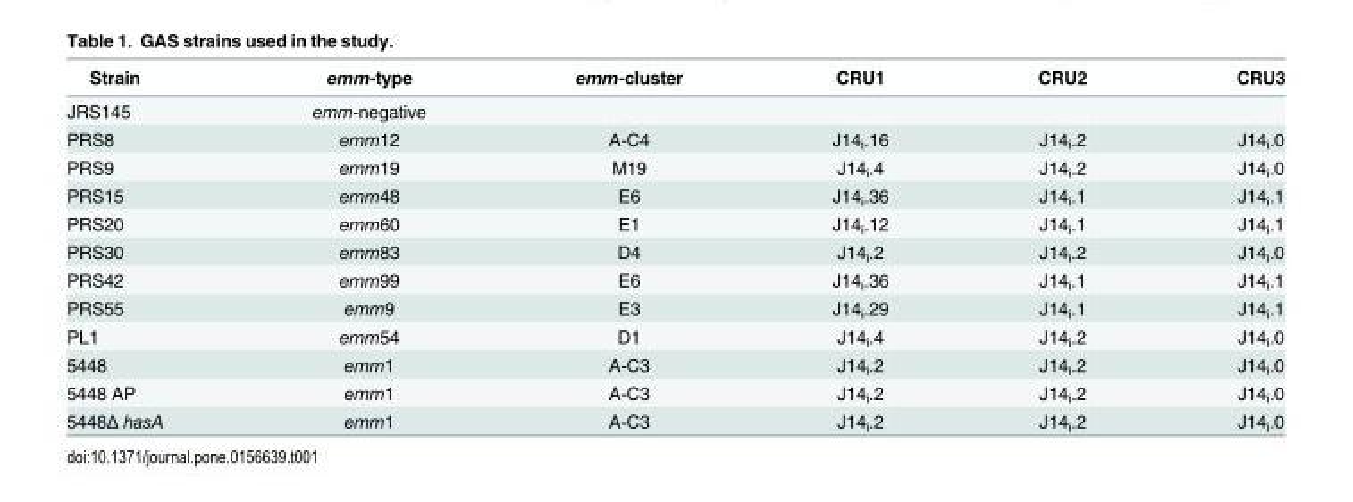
<table><thead><tr><td>Strain</td><td>emm-type</td><td>emm-cluster</td><td>CRU1</td><td>CRU2</td><td>CRU3</td></tr></thead><tbody><tr><td>JRS145</td><td>emm-negative</td><td></td><td></td><td></td><td></td></tr><tr><td>PRS8</td><td>emm12</td><td>A-C4</td><td>J14<sub>i</sub>.16</td><td>J14<sub>i</sub>.2</td><td>J14<sub>i</sub>.0</td></tr><tr><td>PRS9</td><td>emm19</td><td>M19</td><td>J14<sub>i</sub>.4</td><td>J14<sub>i</sub>.2</td><td>J14<sub>i</sub>.0</td></tr><tr><td>PRS15</td><td>emm48</td><td>E6</td><td>J14<sub>i</sub>.36</td><td>J14<sub>i</sub>.1</td><td>J14<sub>i</sub>.1</td></tr><tr><td>PRS20</td><td>emm60</td><td>E1</td><td>J14<sub>i</sub>.12</td><td>J14<sub>i</sub>.1</td><td>J14<sub>i</sub>.1</td></tr><tr><td>PRS30</td><td>emm83</td><td>D4</td><td>J14<sub>i</sub>.2</td><td>J14<sub>i</sub>.2</td><td>J14<sub>i</sub>.0</td></tr><tr><td>PRS42</td><td>emm99</td><td>E6</td><td>J14<sub>i</sub>.36</td><td>J14<sub>i</sub>.1</td><td>J14<sub>i</sub>.1</td></tr><tr><td>PRS55</td><td>emm9</td><td>E3</td><td>J14<sub>i</sub>.29</td><td>J14<sub>i</sub>.1</td><td>J14<sub>i</sub>.1</td></tr><tr><td>PL1</td><td>emm54</td><td>D1</td><td>J14<sub>i</sub>.4</td><td>J14<sub>i</sub>.2</td><td>J14<sub>i</sub>.0</td></tr><tr><td>5448</td><td>emm1</td><td>A-C3</td><td>J14<sub>i</sub>.2</td><td>J14<sub>i</sub>.2</td><td>J14<sub>i</sub>.0</td></tr><tr><td>5448 AP</td><td>emm1</td><td>A-C3</td><td>J14<sub>i</sub>.2</td><td>J14<sub>i</sub>.2</td><td>J14<sub>i</sub>.0</td></tr><tr><td>5448Δ hasA</td><td>emm1</td><td>A-C3</td><td>J14<sub>i</sub>.2</td><td>J14<sub>i</sub>.2</td><td>J14<sub>i</sub>.0</td></tr></tbody></table>